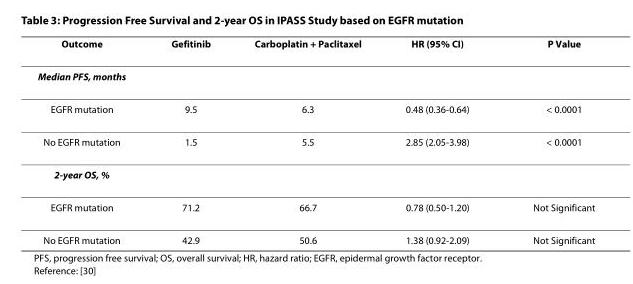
<table><thead><tr><td>Outcome</td><td>Gefitinib</td><td>Carboplatin + Paclitaxel</td><td>HR (95% CI)</td><td>P Value</td></tr></thead><tbody><tr><td colspan="5">Median PFS, months</td></tr><tr><td>EGFR mutation</td><td>9.5</td><td>6.3</td><td>0.48 (0.36-0.64)</td><td>&lt; 0.0001</td></tr><tr><td>No EGFR mutation</td><td>1.5</td><td>5.5</td><td>2.85 (2.05-3.98)</td><td>&lt; 0.0001</td></tr><tr><td colspan="5">2-year OS, %</td></tr><tr><td>EGFR mutation</td><td>71.2</td><td>66.7</td><td>0.78 (0.50-1.20)</td><td>Not Significant</td></tr><tr><td>No EGFR mutation</td><td>42.9</td><td>50.6</td><td>1.38 (0.92-2.09)</td><td>Not Significant</td></tr></tbody></table>